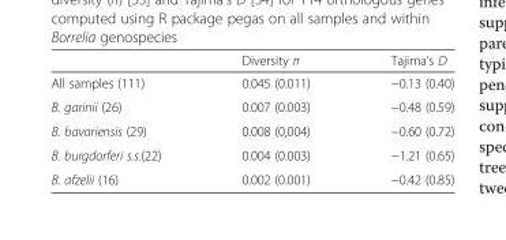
<table><thead><tr><td></td><td>Diversity π</td><td>Tajima’s D</td></tr></thead><tbody><tr><td>All samples (111)</td><td>0.045 (0.011)</td><td>−0.13 (0.40)</td></tr><tr><td>B. garinii (26)</td><td>0.007 (0.003)</td><td>−0.48 (0.59)</td></tr><tr><td>B. bavariensis (29)</td><td>0.008 (0,004)</td><td>−0.60 (0.72)</td></tr><tr><td>B. burgdorferi s.s.(22)</td><td>0.004 (0.003)</td><td>−1.21 (0.65)</td></tr><tr><td>B. afzelii (16)</td><td>0.002 (0.001)</td><td>−0.42 (0.85)</td></tr></tbody></table>